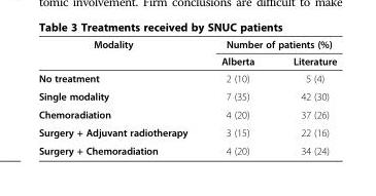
<table><thead><tr><td rowspan="2">Modality</td><td colspan="2">Number of patients (%)</td></tr><tr><td>Alberta</td><td>Literature</td></tr></thead><tbody><tr><td>No treatment</td><td>2 (10)</td><td>5 (4)</td></tr><tr><td>Single modality</td><td>7 (35)</td><td>42 (30)</td></tr><tr><td>Chemoradiation</td><td>4 (20)</td><td>37 (26)</td></tr><tr><td>Surgery + Adjuvant radiotherapy</td><td>3 (15)</td><td>22 (16)</td></tr><tr><td>Surgery + Chemoradiation</td><td>4 (20)</td><td>34 (24)</td></tr></tbody></table>